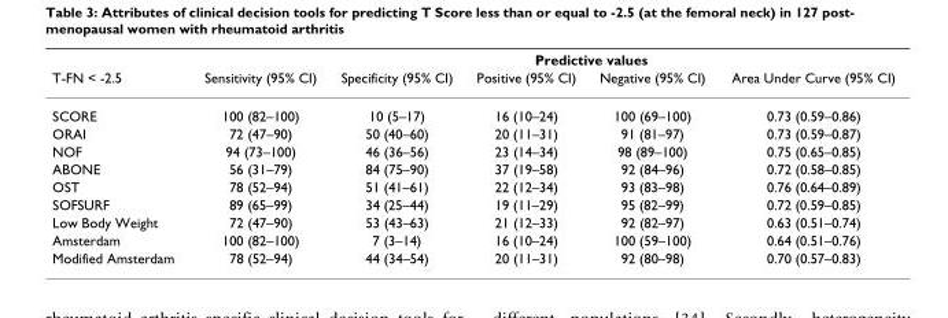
<table><thead><tr><td rowspan="2">T-FN &lt; -2.5</td><td rowspan="2">Sensitivity (95% CI)</td><td rowspan="2">Specificity (95% CI)</td><td colspan="2">Predictive values</td><td rowspan="2">Area Under Curve (95% CI)</td></tr><tr><td>Positive (95% CI)</td><td>Negative (95% CI)</td></tr></thead><tbody><tr><td>SCORE</td><td>100 (82–100)</td><td>10 (5–17)</td><td>16 (10–24)</td><td>100 (69–100)</td><td>0.73 (0.59–0.86)</td></tr><tr><td>ORAI</td><td>72 (47–90)</td><td>50 (40–60)</td><td>20 (11–31)</td><td>91 (81–97)</td><td>0.73 (0.59–0.87)</td></tr><tr><td>NOF</td><td>94 (73–100)</td><td>46 (36–56)</td><td>23 (14–34)</td><td>98 (89–100)</td><td>0.75 (0.65–0.85)</td></tr><tr><td>ABONE</td><td>56 (31–79)</td><td>84 (75–90)</td><td>37 (19–58)</td><td>92 (84–96)</td><td>0.72 (0.58–0.85)</td></tr><tr><td>OST</td><td>78 (52–94)</td><td>51 (41–61)</td><td>22 (12–34)</td><td>93 (83–98)</td><td>0.76 (0.64–0.89)</td></tr><tr><td>SOFSURF</td><td>89 (65–99)</td><td>34 (25–44)</td><td>19 (11–29)</td><td>95 (82–99)</td><td>0.72 (0.59–0.85)</td></tr><tr><td>Low Body Weight</td><td>72 (47–90)</td><td>53 (43–63)</td><td>21 (12–33)</td><td>92 (82–97)</td><td>0.63 (0.51–0.74)</td></tr><tr><td>Amsterdam</td><td>100 (82–100)</td><td>7 (3–14)</td><td>16 (10–24)</td><td>100 (59–100)</td><td>0.64 (0.51–0.76)</td></tr><tr><td>Modified Amsterdam</td><td>78 (52–94)</td><td>44 (34–54)</td><td>20 (11–31)</td><td>92 (80–98)</td><td>0.70 (0.57–0.83)</td></tr></tbody></table>